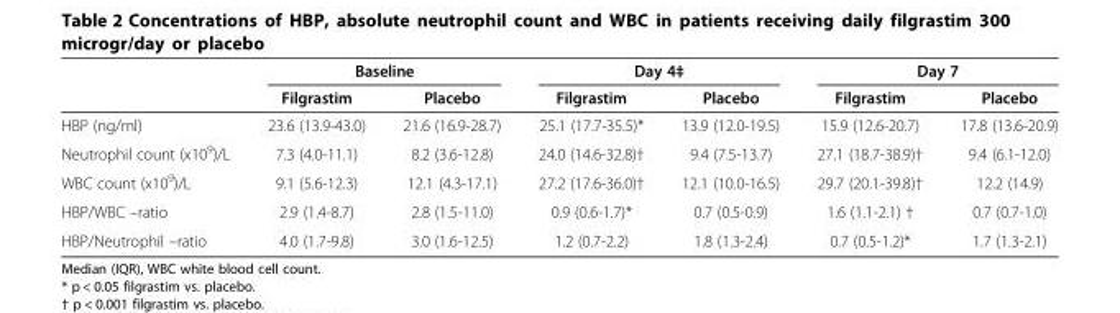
<table><thead><tr><td rowspan="2"></td><td colspan="2">Baseline</td><td colspan="2">Day 4‡</td><td colspan="2">Day 7</td></tr><tr><td>Filgrastim</td><td>Placebo</td><td>Filgrastim</td><td>Placebo</td><td>Filgrastim</td><td>Placebo</td></tr></thead><tbody><tr><td>HBP (ng/ml)</td><td>23.6 (13.9-43.0)</td><td>21.6 (16.9-28.7)</td><td>25.1 (17.7-35.5)*</td><td>13.9 (12.0-19.5)</td><td>15.9 (12.6-20.7)</td><td>17.8 (13.6-20.9)</td></tr><tr><td>Neutrophil count (x10<sup>9</sup>)/L</td><td>7.3 (4.0-11.1)</td><td>8.2 (3.6-12.8)</td><td>24.0 (14.6-32.8)†</td><td>9.4 (7.5-13.7)</td><td>27.1 (18.7-38.9)†</td><td>9.4 (6.1-12.0)</td></tr><tr><td>WBC count (x10<sup>9</sup>)/L</td><td>9.1 (5.6-12.3)</td><td>12.1 (4.3-17.1)</td><td>27.2 (17.6-36.0)†</td><td>12.1 (10.0-16.5)</td><td>29.7 (20.1-39.8)†</td><td>12.2 (14.9)</td></tr><tr><td>HBP/WBC –ratio</td><td>2.9 (1.4-8.7)</td><td>2.8 (1.5-11.0)</td><td>0.9 (0.6-1.7)*</td><td>0.7 (0.5-0.9)</td><td>1.6 (1.1-2.1) †</td><td>0.7 (0.7-1.0)</td></tr><tr><td>HBP/Neutrophil –ratio</td><td>4.0 (1.7-9.8)</td><td>3.0 (1.6-12.5)</td><td>1.2 (0.7-2.2)</td><td>1.8 (1.3-2.4)</td><td>0.7 (0.5-1.2)*</td><td>1.7 (1.3-2.1)</td></tr></tbody></table>